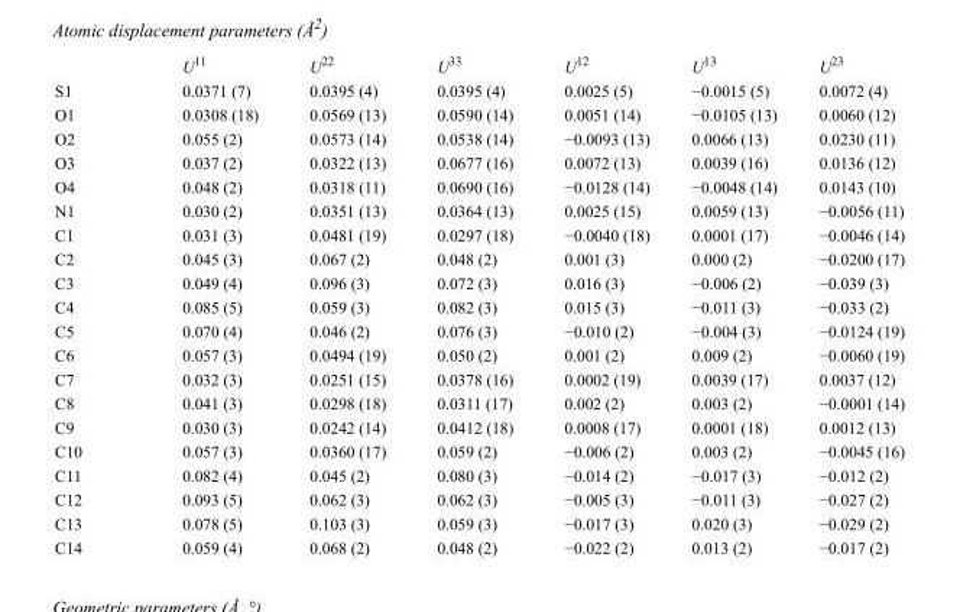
<table><thead><tr><td></td><td>U<sup>11</sup></td><td>U<sup>22</sup></td><td>U<sup>33</sup></td><td>U<sup>12</sup></td><td>U<sup>13</sup></td><td>U<sup>23</sup></td></tr></thead><tbody><tr><td>S1</td><td>0.0371 (7)</td><td>0.0395 (4)</td><td>0.0395 (4)</td><td>0.0025 (5)</td><td>−0.0015 (5)</td><td>0.0072 (4)</td></tr><tr><td>O1</td><td>0.0308 (18)</td><td>0.0569 (13)</td><td>0.0590 (14)</td><td>0.0051 (14)</td><td>−0.0105 (13)</td><td>0.0060 (12)</td></tr><tr><td>O2</td><td>0.055 (2)</td><td>0.0573 (14)</td><td>0.0538 (14)</td><td>−0.0093 (13)</td><td>0.0066 (13)</td><td>0.0230 (11)</td></tr><tr><td>O3</td><td>0.037 (2)</td><td>0.0322 (13)</td><td>0.0677 (16)</td><td>0.0072 (13)</td><td>0.0039 (16)</td><td>0.0136 (12)</td></tr><tr><td>O4</td><td>0.048 (2)</td><td>0.0318 (11)</td><td>0.0690 (16)</td><td>−0.0128 (14)</td><td>−0.0048 (14)</td><td>0.0143 (10)</td></tr><tr><td>N1</td><td>0.030 (2)</td><td>0.0351 (13)</td><td>0.0364 (13)</td><td>0.0025 (15)</td><td>0.0059 (13)</td><td>−0.0056 (11)</td></tr><tr><td>C1</td><td>0.031 (3)</td><td>0.0481 (19)</td><td>0.0297 (18)</td><td>−0.0040 (18)</td><td>0.0001 (17)</td><td>−0.0046 (14)</td></tr><tr><td>C2</td><td>0.045 (3)</td><td>0.067 (2)</td><td>0.048 (2)</td><td>0.001 (3)</td><td>0.000 (2)</td><td>−0.0200 (17)</td></tr><tr><td>C3</td><td>0.049 (4)</td><td>0.096 (3)</td><td>0.072 (3)</td><td>0.016 (3)</td><td>−0.006 (2)</td><td>−0.039 (3)</td></tr><tr><td>C4</td><td>0.085 (5)</td><td>0.059 (3)</td><td>0.082 (3)</td><td>0.015 (3)</td><td>−0.011 (3)</td><td>−0.033 (2)</td></tr><tr><td>C5</td><td>0.070 (4)</td><td>0.046 (2)</td><td>0.076 (3)</td><td>−0.010 (2)</td><td>−0.004 (3)</td><td>−0.0124 (19)</td></tr><tr><td>C6</td><td>0.057 (3)</td><td>0.0494 (19)</td><td>0.050 (2)</td><td>0.001 (2)</td><td>0.009 (2)</td><td>−0.0060 (19)</td></tr><tr><td>C7</td><td>0.032 (3)</td><td>0.0251 (15)</td><td>0.0378 (16)</td><td>0.0002 (19)</td><td>0.0039 (17)</td><td>0.0037 (12)</td></tr><tr><td>C8</td><td>0.041 (3)</td><td>0.0298 (18)</td><td>0.0311 (17)</td><td>0.002 (2)</td><td>0.003 (2)</td><td>−0.0001 (14)</td></tr><tr><td>C9</td><td>0.030 (3)</td><td>0.0242 (14)</td><td>0.0412 (18)</td><td>0.0008 (17)</td><td>0.0001 (18)</td><td>0.0012 (13)</td></tr><tr><td>C10</td><td>0.057 (3)</td><td>0.0360 (17)</td><td>0.059 (2)</td><td>−0.006 (2)</td><td>0.003 (2)</td><td>−0.0045 (16)</td></tr><tr><td>C11</td><td>0.082 (4)</td><td>0.045 (2)</td><td>0.080 (3)</td><td>−0.014 (2)</td><td>−0.017 (3)</td><td>−0.012 (2)</td></tr><tr><td>C12</td><td>0.093 (5)</td><td>0.062 (3)</td><td>0.062 (3)</td><td>−0.005 (3)</td><td>−0.011 (3)</td><td>−0.027 (2)</td></tr><tr><td>C13</td><td>0.078 (5)</td><td>0.103 (3)</td><td>0.059 (3)</td><td>−0.017 (3)</td><td>0.020 (3)</td><td>−0.029 (2)</td></tr><tr><td>C14</td><td>0.059 (4)</td><td>0.068 (2)</td><td>0.048 (2)</td><td>−0.022 (2)</td><td>0.013 (2)</td><td>−0.017 (2)</td></tr></tbody></table>